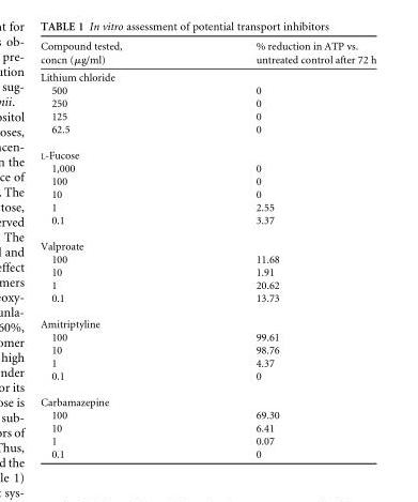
<table><thead><tr><td>Compound tested, concn (µg/ml)</td><td>% reduction in ATP vs. untreated control after 72 h</td></tr></thead><tbody><tr><td colspan="2">Lithium chloride</td></tr><tr><td>500</td><td>0</td></tr><tr><td>250</td><td>0</td></tr><tr><td>125</td><td>0</td></tr><tr><td>62.5</td><td>0</td></tr><tr><td colspan="2">L-Fucose</td></tr><tr><td>1,000</td><td>0</td></tr><tr><td>100</td><td>0</td></tr><tr><td>10</td><td>0</td></tr><tr><td>1</td><td>2.55</td></tr><tr><td>0.1</td><td>3.37</td></tr><tr><td colspan="2">Valproate</td></tr><tr><td>100</td><td>11.68</td></tr><tr><td>10</td><td>1.91</td></tr><tr><td>1</td><td>20.62</td></tr><tr><td>0.1</td><td>13.73</td></tr><tr><td colspan="2">Amitriptyline</td></tr><tr><td>100</td><td>99.61</td></tr><tr><td>10</td><td>98.76</td></tr><tr><td>1</td><td>4.37</td></tr><tr><td>0.1</td><td>0</td></tr><tr><td colspan="2">Carbamazepine</td></tr><tr><td>100</td><td>69.30</td></tr><tr><td>10</td><td>6.41</td></tr><tr><td>1</td><td>0.07</td></tr><tr><td>0.1</td><td>0</td></tr></tbody></table>